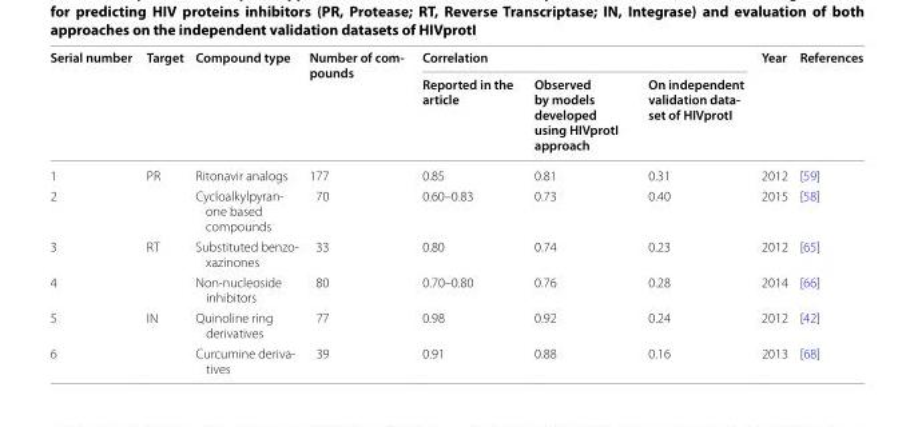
<table><thead><tr><td rowspan="2">Serial number</td><td rowspan="2">Target</td><td rowspan="2">Compound type</td><td rowspan="2">Number of com- pounds</td><td colspan="3">Correlation</td><td rowspan="2">Year</td><td rowspan="2">References</td></tr><tr><td>Reported in the article</td><td>Observed by models developed using HIVprotI approach</td><td>On independent validation data- set of HIVprotI</td></tr></thead><tbody><tr><td>1</td><td rowspan="2">PR</td><td>Ritonavir analogs</td><td>177</td><td>0.85</td><td>0.81</td><td>0.31</td><td>2012</td><td>[59]</td></tr><tr><td>2</td><td>Cycloalkylpyran- one based compounds</td><td>70</td><td>0.60–0.83</td><td>0.73</td><td>0.40</td><td>2015</td><td>[58]</td></tr><tr><td>3</td><td rowspan="2">RT</td><td>Substituted benzo- xazinones</td><td>33</td><td>0.80</td><td>0.74</td><td>0.23</td><td>2012</td><td>[65]</td></tr><tr><td>4</td><td>Non-nucleoside inhibitors</td><td>80</td><td>0.70–0.80</td><td>0.76</td><td>0.28</td><td>2014</td><td>[66]</td></tr><tr><td>5</td><td rowspan="2">IN</td><td>Quinoline ring derivatives</td><td>77</td><td>0.98</td><td>0.92</td><td>0.24</td><td>2012</td><td>[42]</td></tr><tr><td>6</td><td>Curcumine deriva- tives</td><td>39</td><td>0.91</td><td>0.88</td><td>0.16</td><td>2013</td><td>[68]</td></tr></tbody></table>